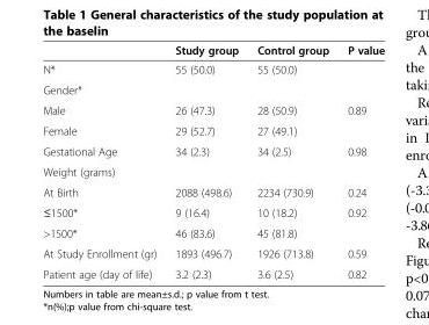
<table><thead><tr><td></td><td>Study group</td><td>Control group</td><td>P value</td></tr></thead><tbody><tr><td>N*</td><td>55 (50.0)</td><td>55 (50.0)</td><td></td></tr><tr><td colspan="4">Gender*</td></tr><tr><td>Male</td><td>26 (47.3)</td><td>28 (50.9)</td><td>0.89</td></tr><tr><td>Female</td><td>29 (52.7)</td><td>27 (49.1)</td><td></td></tr><tr><td>Gestational Age</td><td>34 (2.3)</td><td>34 (2.5)</td><td>0.98</td></tr><tr><td colspan="4">Weight (grams)</td></tr><tr><td>At Birth</td><td>2088 (498.6)</td><td>2234 (730.9)</td><td>0.24</td></tr><tr><td>≤1500*</td><td>9 (16.4)</td><td>10 (18.2)</td><td>0.92</td></tr><tr><td>&gt;1500*</td><td>46 (83.6)</td><td>45 (81.8)</td><td></td></tr><tr><td>At Study Enrollment (gr)</td><td>1893 (496.7)</td><td>1926 (713.8)</td><td>0.59</td></tr><tr><td>Patient age (day of life)</td><td>3.2 (2.3)</td><td>3.6 (2.5)</td><td>0.82</td></tr></tbody></table>